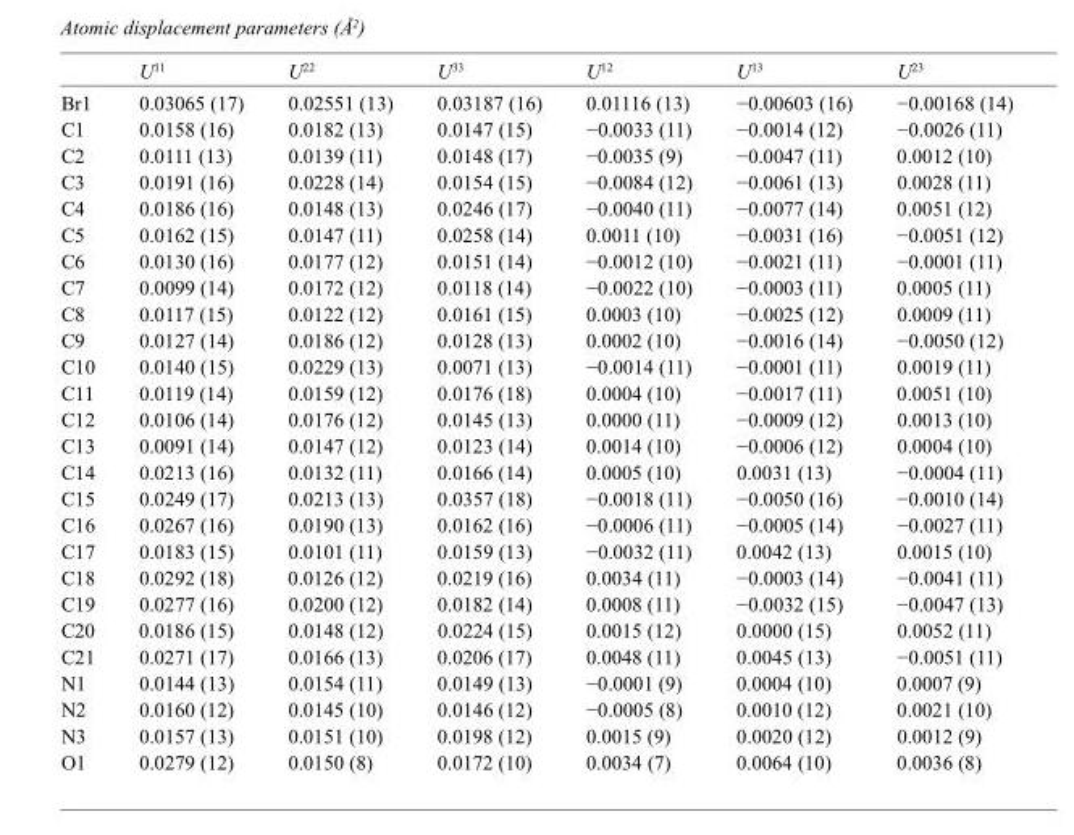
<table><thead><tr><td></td><td>U<sup>11</sup></td><td>U<sup>22</sup></td><td>U<sup>33</sup></td><td>U<sup>12</sup></td><td>U<sup>13</sup></td><td>U<sup>23</sup></td></tr></thead><tbody><tr><td>Br1</td><td>0.03065 (17)</td><td>0.02551 (13)</td><td>0.03187 (16)</td><td>0.01116 (13)</td><td>−0.00603 (16)</td><td>−0.00168 (14)</td></tr><tr><td>C1</td><td>0.0158 (16)</td><td>0.0182 (13)</td><td>0.0147 (15)</td><td>−0.0033 (11)</td><td>−0.0014 (12)</td><td>−0.0026 (11)</td></tr><tr><td>C2</td><td>0.0111 (13)</td><td>0.0139 (11)</td><td>0.0148 (17)</td><td>−0.0035 (9)</td><td>−0.0047 (11)</td><td>0.0012 (10)</td></tr><tr><td>C3</td><td>0.0191 (16)</td><td>0.0228 (14)</td><td>0.0154 (15)</td><td>−0.0084 (12)</td><td>−0.0061 (13)</td><td>0.0028 (11)</td></tr><tr><td>C4</td><td>0.0186 (16)</td><td>0.0148 (13)</td><td>0.0246 (17)</td><td>−0.0040 (11)</td><td>−0.0077 (14)</td><td>0.0051 (12)</td></tr><tr><td>C5</td><td>0.0162 (15)</td><td>0.0147 (11)</td><td>0.0258 (14)</td><td>0.0011 (10)</td><td>−0.0031 (16)</td><td>−0.0051 (12)</td></tr><tr><td>C6</td><td>0.0130 (16)</td><td>0.0177 (12)</td><td>0.0151 (14)</td><td>−0.0012 (10)</td><td>−0.0021 (11)</td><td>−0.0001 (11)</td></tr><tr><td>C7</td><td>0.0099 (14)</td><td>0.0172 (12)</td><td>0.0118 (14)</td><td>−0.0022 (10)</td><td>−0.0003 (11)</td><td>0.0005 (11)</td></tr><tr><td>C8</td><td>0.0117 (15)</td><td>0.0122 (12)</td><td>0.0161 (15)</td><td>0.0003 (10)</td><td>−0.0025 (12)</td><td>0.0009 (11)</td></tr><tr><td>C9</td><td>0.0127 (14)</td><td>0.0186 (12)</td><td>0.0128 (13)</td><td>0.0002 (10)</td><td>−0.0016 (14)</td><td>−0.0050 (12)</td></tr><tr><td>C10</td><td>0.0140 (15)</td><td>0.0229 (13)</td><td>0.0071 (13)</td><td>−0.0014 (11)</td><td>−0.0001 (11)</td><td>0.0019 (11)</td></tr><tr><td>C11</td><td>0.0119 (14)</td><td>0.0159 (12)</td><td>0.0176 (18)</td><td>0.0004 (10)</td><td>−0.0017 (11)</td><td>0.0051 (10)</td></tr><tr><td>C12</td><td>0.0106 (14)</td><td>0.0176 (12)</td><td>0.0145 (13)</td><td>0.0000 (11)</td><td>−0.0009 (12)</td><td>0.0013 (10)</td></tr><tr><td>C13</td><td>0.0091 (14)</td><td>0.0147 (12)</td><td>0.0123 (14)</td><td>0.0014 (10)</td><td>−0.0006 (12)</td><td>0.0004 (10)</td></tr><tr><td>C14</td><td>0.0213 (16)</td><td>0.0132 (11)</td><td>0.0166 (14)</td><td>0.0005 (10)</td><td>0.0031 (13)</td><td>−0.0004 (11)</td></tr><tr><td>C15</td><td>0.0249 (17)</td><td>0.0213 (13)</td><td>0.0357 (18)</td><td>−0.0018 (11)</td><td>−0.0050 (16)</td><td>−0.0010 (14)</td></tr><tr><td>C16</td><td>0.0267 (16)</td><td>0.0190 (13)</td><td>0.0162 (16)</td><td>−0.0006 (11)</td><td>−0.0005 (14)</td><td>−0.0027 (11)</td></tr><tr><td>C17</td><td>0.0183 (15)</td><td>0.0101 (11)</td><td>0.0159 (13)</td><td>−0.0032 (11)</td><td>0.0042 (13)</td><td>0.0015 (10)</td></tr><tr><td>C18</td><td>0.0292 (18)</td><td>0.0126 (12)</td><td>0.0219 (16)</td><td>0.0034 (11)</td><td>−0.0003 (14)</td><td>−0.0041 (11)</td></tr><tr><td>C19</td><td>0.0277 (16)</td><td>0.0200 (12)</td><td>0.0182 (14)</td><td>0.0008 (11)</td><td>−0.0032 (15)</td><td>−0.0047 (13)</td></tr><tr><td>C20</td><td>0.0186 (15)</td><td>0.0148 (12)</td><td>0.0224 (15)</td><td>0.0015 (12)</td><td>0.0000 (15)</td><td>0.0052 (11)</td></tr><tr><td>C21</td><td>0.0271 (17)</td><td>0.0166 (13)</td><td>0.0206 (17)</td><td>0.0048 (11)</td><td>0.0045 (13)</td><td>−0.0051 (11)</td></tr><tr><td>N1</td><td>0.0144 (13)</td><td>0.0154 (11)</td><td>0.0149 (13)</td><td>−0.0001 (9)</td><td>0.0004 (10)</td><td>0.0007 (9)</td></tr><tr><td>N2</td><td>0.0160 (12)</td><td>0.0145 (10)</td><td>0.0146 (12)</td><td>−0.0005 (8)</td><td>0.0010 (12)</td><td>0.0021 (10)</td></tr><tr><td>N3</td><td>0.0157 (13)</td><td>0.0151 (10)</td><td>0.0198 (12)</td><td>0.0015 (9)</td><td>0.0020 (12)</td><td>0.0012 (9)</td></tr><tr><td>O1</td><td>0.0279 (12)</td><td>0.0150 (8)</td><td>0.0172 (10)</td><td>0.0034 (7)</td><td>0.0064 (10)</td><td>0.0036 (8)</td></tr></tbody></table>